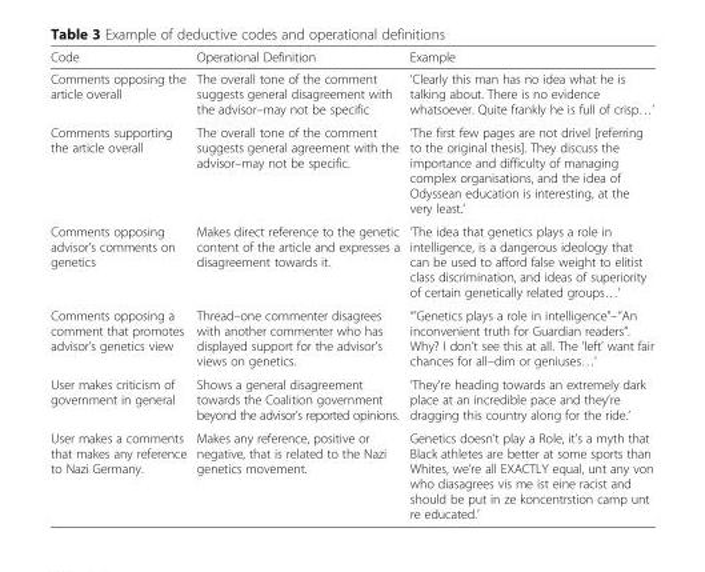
<table><thead><tr><td>Code</td><td>Operational Definition</td><td>Example</td></tr></thead><tbody><tr><td>Comments opposing the article overall</td><td>The overall tone of the comment suggests general disagreement with the advisor–may not be specific</td><td>‘Clearly this man has no idea what he is talking about. There is no evidence whatsoever. Quite frankly he is full of crisp…’</td></tr><tr><td>Comments supporting the article overall</td><td>The overall tone of the comment suggests general agreement with the advisor–may not be specific.</td><td>‘The first few pages are not drivel [referring to the original thesis]. They discuss the importance and difficulty of managing complex organisations, and the idea of Odyssean education is interesting, at the very least.’</td></tr><tr><td>Comments opposing advisor’s comments on genetics</td><td>Makes direct reference to the genetic content of the article and expresses a disagreement towards it.</td><td>‘The idea that genetics plays a role in intelligence, is a dangerous ideology that can be used to afford false weight to elitist class discrimination, and ideas of superiority of certain genetically related groups…’</td></tr><tr><td>Comments opposing a comment that promotes advisor’s genetics view</td><td>Thread–one commenter disagrees with another commenter who has displayed support for the advisor’s views on genetics.</td><td>“’Genetics plays a role in intelligence”–‘’An inconvenient truth for Guardian readers”. Why? I don’t see this at all. The ‘left’ want fair chances for all–dim or geniuses…’</td></tr><tr><td>User makes criticism of government in general</td><td>Shows a general disagreement towards the Coalition government beyond the advisor’s reported opinions.</td><td>‘They’re heading towards an extremely dark place at an incredible pace and they’re dragging this country along for the ride.’</td></tr><tr><td>User makes a comments that makes any reference to Nazi Germany.</td><td>Makes any reference, positive or negative, that is related to the Nazi genetics movement.</td><td>Genetics doesn’t play a Role, it’s a myth that Black athletes are better at some sports than Whites, we’re all EXACTLY equal, unt any von who diasagrees vis me ist eine racist and should be put in ze koncentrstion camp unt re educated.’</td></tr></tbody></table>